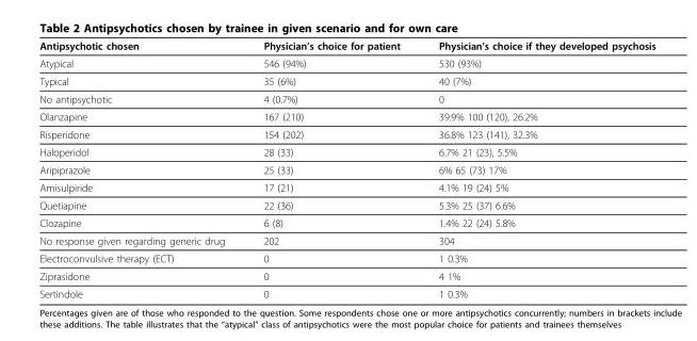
<table><thead><tr><td>Antipsychotic chosen</td><td>Physician’s choice for patient</td><td>Physician’s choice if they developed psychosis</td></tr></thead><tbody><tr><td>Atypical</td><td>546 (94%)</td><td>530 (93%)</td></tr><tr><td>Typical</td><td>35 (6%)</td><td>40 (7%)</td></tr><tr><td>No antipsychotic</td><td>4 (0.7%)</td><td>0</td></tr><tr><td>Olanzapine</td><td>167 (210)</td><td>39.9% 100 (120), 26.2%</td></tr><tr><td>Risperidone</td><td>154 (202)</td><td>36.8% 123 (141), 32.3%</td></tr><tr><td>Haloperidol</td><td>28 (33)</td><td>6.7% 21 (23), 5.5%</td></tr><tr><td>Aripiprazole</td><td>25 (33)</td><td>6% 65 (73) 17%</td></tr><tr><td>Amisulpiride</td><td>17 (21)</td><td>4.1% 19 (24) 5%</td></tr><tr><td>Quetiapine</td><td>22 (36)</td><td>5.3% 25 (37) 6.6%</td></tr><tr><td>Clozapine</td><td>6 (8)</td><td>1.4% 22 (24) 5.8%</td></tr><tr><td>No response given regarding generic drug</td><td>202</td><td>304</td></tr><tr><td>Electroconvulsive therapy (ECT)</td><td>0</td><td>1 0.3%</td></tr><tr><td>Ziprasidone</td><td>0</td><td>4 1%</td></tr><tr><td>Sertindole</td><td>0</td><td>1 0.3%</td></tr></tbody></table>